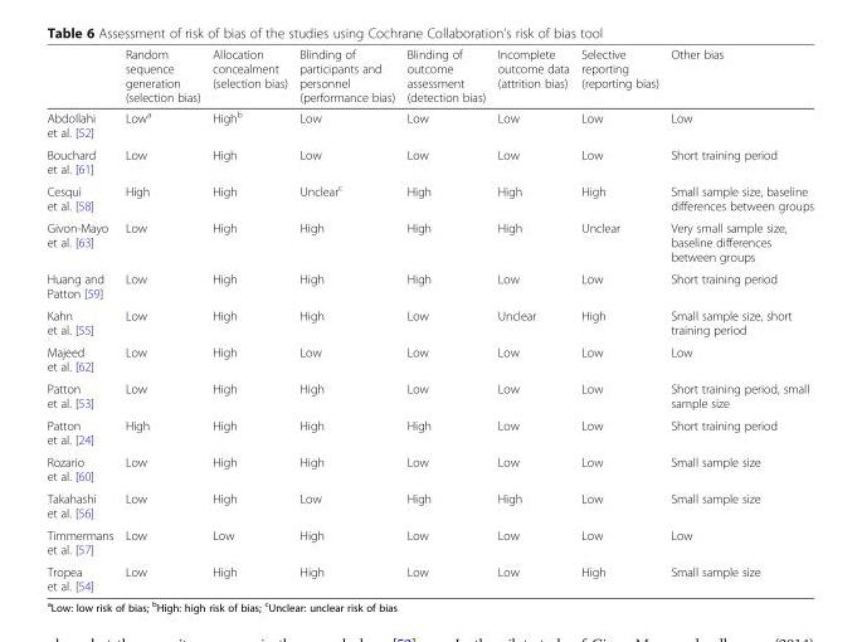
<table><thead><tr><td></td><td>Random sequence generation (selection bias)</td><td>Allocation concealment (selection bias)</td><td>Blinding of participants and personnel (performance bias)</td><td>Blinding of outcome assessment (detection bias)</td><td>Incomplete outcome data (attrition bias)</td><td>Selective reporting (reporting bias)</td><td>Other bias</td></tr></thead><tbody><tr><td>Abdollahi et al. [52]</td><td>Low<sup>a</sup></td><td>High<sup>b</sup></td><td>Low</td><td>Low</td><td>Low</td><td>Low</td><td>Low</td></tr><tr><td>Bouchard et al. [61]</td><td>Low</td><td>High</td><td>Low</td><td>Low</td><td>Low</td><td>Low</td><td>Short training period</td></tr><tr><td>Cesqui et al. [58]</td><td>High</td><td>High</td><td>Unclear<sup>c</sup></td><td>High</td><td>High</td><td>High</td><td>Small sample size, baseline differences between groups</td></tr><tr><td>Givon-Mayo et al. [63]</td><td>Low</td><td>High</td><td>High</td><td>High</td><td>High</td><td>Unclear</td><td>Very small sample size, baseline differences between groups</td></tr><tr><td>Huang and Patton [59]</td><td>Low</td><td>High</td><td>High</td><td>High</td><td>Low</td><td>Low</td><td>Short training period</td></tr><tr><td>Kahn et al. [55]</td><td>Low</td><td>High</td><td>High</td><td>Low</td><td>Unclear</td><td>High</td><td>Small sample size, short training period</td></tr><tr><td>Majeed et al. [62]</td><td>Low</td><td>High</td><td>Low</td><td>Low</td><td>Low</td><td>Low</td><td>Low</td></tr><tr><td>Patton et al. [53]</td><td>Low</td><td>High</td><td>High</td><td>Low</td><td>Low</td><td>Low</td><td>Short training period, small sample size</td></tr><tr><td>Patton et al. [24]</td><td>High</td><td>High</td><td>High</td><td>High</td><td>Low</td><td>Low</td><td>Short training period</td></tr><tr><td>Rozario et al. [60]</td><td>Low</td><td>High</td><td>High</td><td>Low</td><td>Low</td><td>Low</td><td>Small sample size</td></tr><tr><td>Takahashi et al. [56]</td><td>Low</td><td>High</td><td>Low</td><td>High</td><td>High</td><td>Low</td><td>Small sample size</td></tr><tr><td>Timmermans et al. [57]</td><td>Low</td><td>Low</td><td>High</td><td>Low</td><td>Low</td><td>Low</td><td>Low</td></tr><tr><td>Tropea et al. [54]</td><td>Low</td><td>High</td><td>High</td><td>Low</td><td>Low</td><td>High</td><td>Small sample size</td></tr></tbody></table>